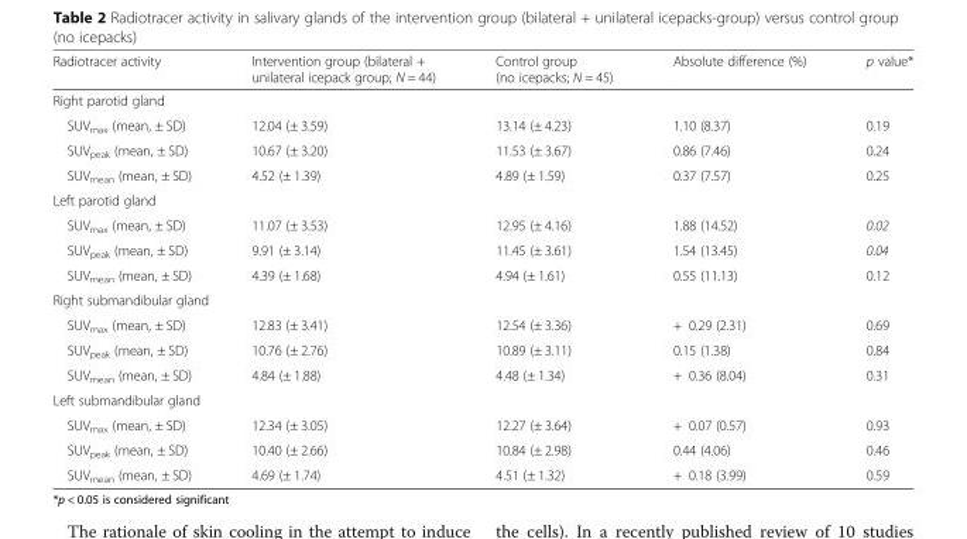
<table><thead><tr><td>Radiotracer activity</td><td>Intervention group (bilateral + unilateral icepack group; N = 44)</td><td>Control group (no icepacks; N = 45)</td><td>Absolute difference (%)</td><td>p value*</td></tr></thead><tbody><tr><td colspan="5">Right parotid gland</td></tr><tr><td>SUV<sub>max</sub> (mean, ± SD)</td><td>12.04 (± 3.59)</td><td>13.14 (± 4.23)</td><td>1.10 (8.37)</td><td>0.19</td></tr><tr><td>SUV<sub>peak</sub> (mean, ± SD)</td><td>10.67 (± 3.20)</td><td>11.53 (± 3.67)</td><td>0.86 (7.46)</td><td>0.24</td></tr><tr><td>SUV<sub>mean</sub> (mean, ± SD)</td><td>4.52 (± 1.39)</td><td>4.89 (± 1.59)</td><td>0.37 (7.57)</td><td>0.25</td></tr><tr><td colspan="5">Left parotid gland</td></tr><tr><td>SUV<sub>max</sub> (mean, ± SD)</td><td>11.07 (± 3.53)</td><td>12.95 (± 4.16)</td><td>1.88 (14.52)</td><td>0.02</td></tr><tr><td>SUV<sub>peak</sub> (mean, ± SD)</td><td>9.91 (± 3.14)</td><td>11.45 (± 3.61)</td><td>1.54 (13.45)</td><td>0.04</td></tr><tr><td>SUV<sub>mean</sub> (mean, ± SD)</td><td>4.39 (± 1.68)</td><td>4.94 (± 1.61)</td><td>0.55 (11.13)</td><td>0.12</td></tr><tr><td colspan="5">Right submandibular gland</td></tr><tr><td>SUV<sub>max</sub> (mean, ± SD)</td><td>12.83 (± 3.41)</td><td>12.54 (± 3.36)</td><td>+ 0.29 (2.31)</td><td>0.69</td></tr><tr><td>SUV<sub>peak</sub> (mean, ± SD)</td><td>10.76 (± 2.76)</td><td>10.89 (± 3.11)</td><td>0.15 (1.38)</td><td>0.84</td></tr><tr><td>SUV<sub>mean</sub> (mean, ± SD)</td><td>4.84 (± 1.88)</td><td>4.48 (± 1.34)</td><td>+ 0.36 (8.04)</td><td>0.31</td></tr><tr><td colspan="5">Left submandibular gland</td></tr><tr><td>SUV<sub>max</sub> (mean, ± SD)</td><td>12.34 (± 3.05)</td><td>12.27 (± 3.64)</td><td>+ 0.07 (0.57)</td><td>0.93</td></tr><tr><td>SUV<sub>peak</sub> (mean, ± SD)</td><td>10.40 (± 2.66)</td><td>10.84 (± 2.98)</td><td>0.44 (4.06)</td><td>0.46</td></tr><tr><td>SUV<sub>mean</sub> (mean, ± SD)</td><td>4.69 (± 1.74)</td><td>4.51 (± 1.32)</td><td>+ 0.18 (3.99)</td><td>0.59</td></tr></tbody></table>